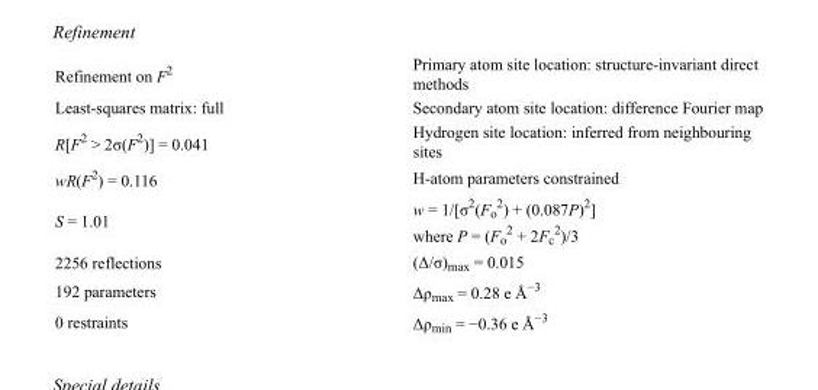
<table><tbody><tr><td>Refinement on F<sup>2</sup></td><td>Primary atom site location: structure-invariant direct methods</td></tr><tr><td>Least-squares matrix: full</td><td>Secondary atom site location: difference Fourier map</td></tr><tr><td>R[F<sup>2</sup> &gt; 2σ(F<sup>2</sup>)] = 0.041</td><td>Hydrogen site location: inferred from neighbouring sites</td></tr><tr><td>wR(F<sup>2</sup>) = 0.116</td><td>H-atom parameters constrained</td></tr><tr><td>S = 1.01</td><td>w = 1/[σ<sup>2</sup>(F<sub>o</sub> <sup>2</sup>) + (0.087P)<sup>2</sup>] where P = (F<sub>o</sub> <sup>2</sup> + 2F<sub>c</sub> <sup>2</sup>)/3</td></tr><tr><td>2256 reflections</td><td>(Δ/σ)<sub>max</sub> = 0.015</td></tr><tr><td>192 parameters</td><td>Δρ<sub>max</sub> = 0.28 e Å<sup>−3</sup></td></tr><tr><td>0 restraints</td><td>Δρ<sub>min</sub> = −0.36 e Å<sup>−3</sup></td></tr></tbody></table>